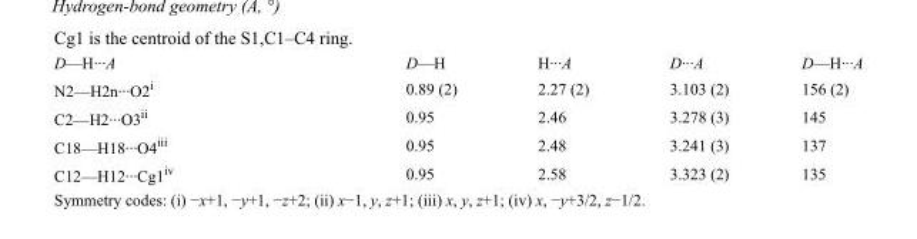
<table><tbody><tr><td>D—H···A</td><td>D—H</td><td>H···A</td><td>D···A</td><td>D—H···A</td></tr><tr><td>N2—H2n···O2<sup>i</sup></td><td>0.89 (2)</td><td>2.27 (2)</td><td>3.103 (2)</td><td>156 (2)</td></tr><tr><td>C2—H2···O3<sup>ii</sup></td><td>0.95</td><td>2.46</td><td>3.278 (3)</td><td>145</td></tr><tr><td>C18—H18···O4<sup>iii</sup></td><td>0.95</td><td>2.48</td><td>3.241 (3)</td><td>137</td></tr><tr><td>C12—H12···Cg1<sup>iv</sup></td><td>0.95</td><td>2.58</td><td>3.323 (2)</td><td>135</td></tr></tbody></table>